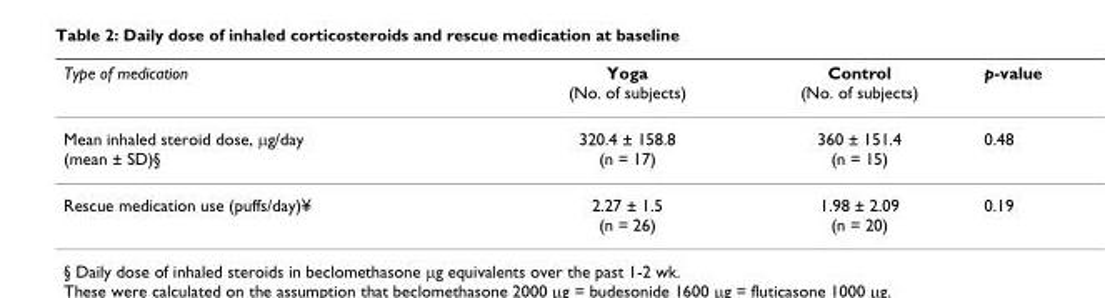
<table><thead><tr><td>Type of medication</td><td>Yoga (No. of subjects)</td><td>Control (No. of subjects)</td><td>p-value</td></tr></thead><tbody><tr><td>Mean inhaled steroid dose, μg/day (mean ± SD)§</td><td>320.4 ± 158.8 (n = 17)</td><td>360 ± 151.4 (n = 15)</td><td>0.48</td></tr><tr><td>Rescue medication use (puffs/day)¥</td><td>2.27 ± 1.5 (n = 26)</td><td>1.98 ± 2.09 (n = 20)</td><td>0.19</td></tr></tbody></table>